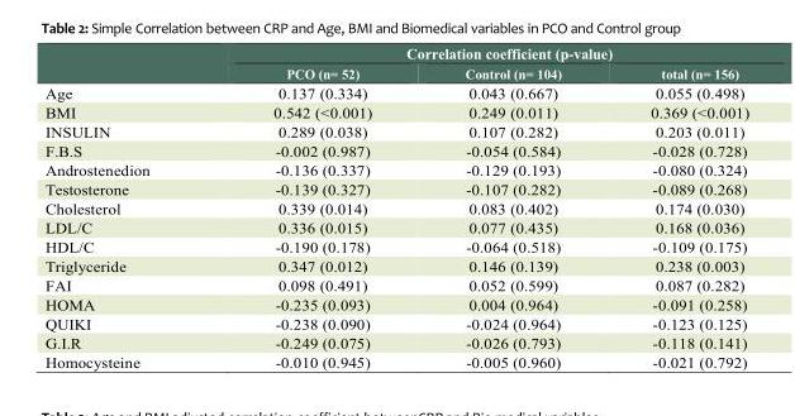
<table><thead><tr><td rowspan="2"></td><td colspan="3">Correlation coefficient (p-value)</td></tr><tr><td>PCO (n= 52)</td><td>Control (n= 104)</td><td>total (n= 156)</td></tr></thead><tbody><tr><td>Age</td><td>0.137 (0.334)</td><td>0.043 (0.667)</td><td>0.055 (0.498)</td></tr><tr><td>BMI</td><td>0.542 (&lt;0.001)</td><td>0.249 (0.011)</td><td>0.369 (&lt;0.001)</td></tr><tr><td>INSULIN</td><td>0.289 (0.038)</td><td>0.107 (0.282)</td><td>0.203 (0.011)</td></tr><tr><td>F.B.S</td><td>-0.002 (0.987)</td><td>-0.054 (0.584)</td><td>-0.028 (0.728)</td></tr><tr><td>Androstenedion</td><td>-0.136 (0.337)</td><td>-0.129 (0.193)</td><td>-0.080 (0.324)</td></tr><tr><td>Testosterone</td><td>-0.139 (0.327)</td><td>-0.107 (0.282)</td><td>-0.089 (0.268)</td></tr><tr><td>Cholesterol</td><td>0.339 (0.014)</td><td>0.083 (0.402)</td><td>0.174 (0.030)</td></tr><tr><td>LDL/C</td><td>0.336 (0.015)</td><td>0.077 (0.435)</td><td>0.168 (0.036)</td></tr><tr><td>HDL/C</td><td>-0.190 (0.178)</td><td>-0.064 (0.518)</td><td>-0.109 (0.175)</td></tr><tr><td>Triglyceride</td><td>0.347 (0.012)</td><td>0.146 (0.139)</td><td>0.238 (0.003)</td></tr><tr><td>FAI</td><td>0.098 (0.491)</td><td>0.052 (0.599)</td><td>0.087 (0.282)</td></tr><tr><td>HOMA</td><td>-0.235 (0.093)</td><td>0.004 (0.964)</td><td>-0.091 (0.258)</td></tr><tr><td>QUIKI</td><td>-0.238 (0.090)</td><td>-0.024 (0.964)</td><td>-0.123 (0.125)</td></tr><tr><td>G.I.R</td><td>-0.249 (0.075)</td><td>-0.026 (0.793)</td><td>-0.118 (0.141)</td></tr><tr><td>Homocysteine</td><td>-0.010 (0.945)</td><td>-0.005 (0.960)</td><td>-0.021 (0.792)</td></tr></tbody></table>